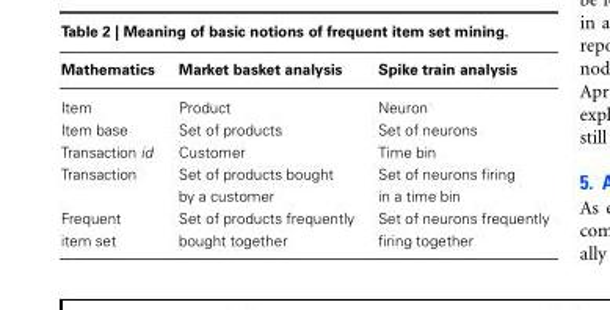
<table><thead><tr><td>Mathematics</td><td>Market basket analysis</td><td>Spike train analysis</td></tr></thead><tbody><tr><td>Item</td><td>Product</td><td>Neuron</td></tr><tr><td>Item base</td><td>Set of products</td><td>Set of neurons</td></tr><tr><td>Transaction id</td><td>Customer</td><td>Time bin</td></tr><tr><td>Transaction</td><td>Set of products bought by a customer</td><td>Set of neurons firing in a time bin</td></tr><tr><td>Frequent</td><td>Set of products frequently</td><td>Set of neurons frequently</td></tr><tr><td>item set</td><td>bought together</td><td>firing together</td></tr></tbody></table>